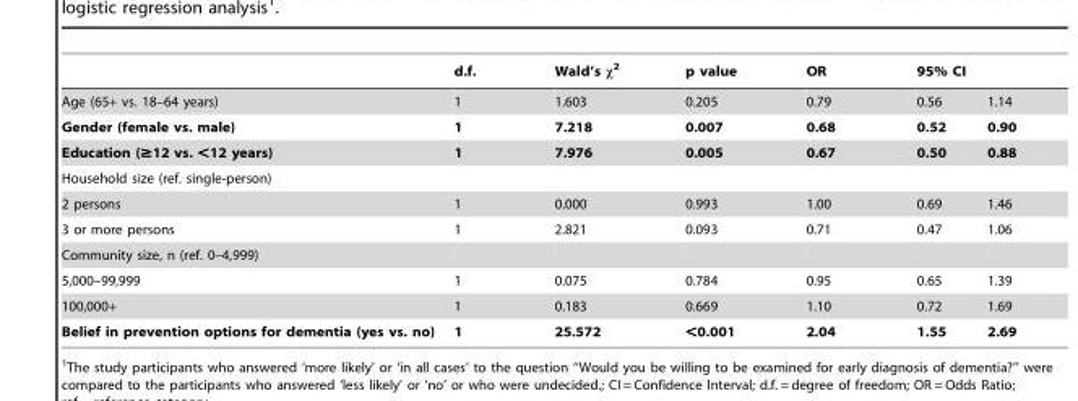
<table><thead><tr><td rowspan="2">Age (65+ vs. 18–64 years)</td><td rowspan="2">d.f. 1</td><td rowspan="2">Wald’s χ<sup>2</sup> 1.603</td><td rowspan="2">p value 0.205</td><td rowspan="2">OR 0.79</td><td colspan="2">95% CI</td></tr><tr><td>0.56</td><td>1.14</td></tr></thead><tbody><tr><td>Gender (female vs. male)</td><td>1</td><td>7.218</td><td>0.007</td><td>0.68</td><td>0.52</td><td>0.90</td></tr><tr><td>Education (≥12 vs. &lt;12 years)</td><td>1</td><td>7.976</td><td>0.005</td><td>0.67</td><td>0.50</td><td>0.88</td></tr><tr><td colspan="7">Household size (ref. single-person)</td></tr><tr><td>2 persons</td><td>1</td><td>0.000</td><td>0.993</td><td>1.00</td><td>0.69</td><td>1.46</td></tr><tr><td>3 or more persons</td><td>1</td><td>2.821</td><td>0.093</td><td>0.71</td><td>0.47</td><td>1.06</td></tr><tr><td colspan="7">Community size, n (ref. 0–4,999)</td></tr><tr><td>5,000–99,999</td><td>1</td><td>0.075</td><td>0.784</td><td>0.95</td><td>0.65</td><td>1.39</td></tr><tr><td>100,000+</td><td>1</td><td>0.183</td><td>0.669</td><td>1.10</td><td>0.72</td><td>1.69</td></tr><tr><td>Belief in prevention options for dementia (yes vs. no)</td><td>1</td><td>25.572</td><td>&lt;0.001</td><td>2.04</td><td>1.55</td><td>2.69</td></tr></tbody></table>